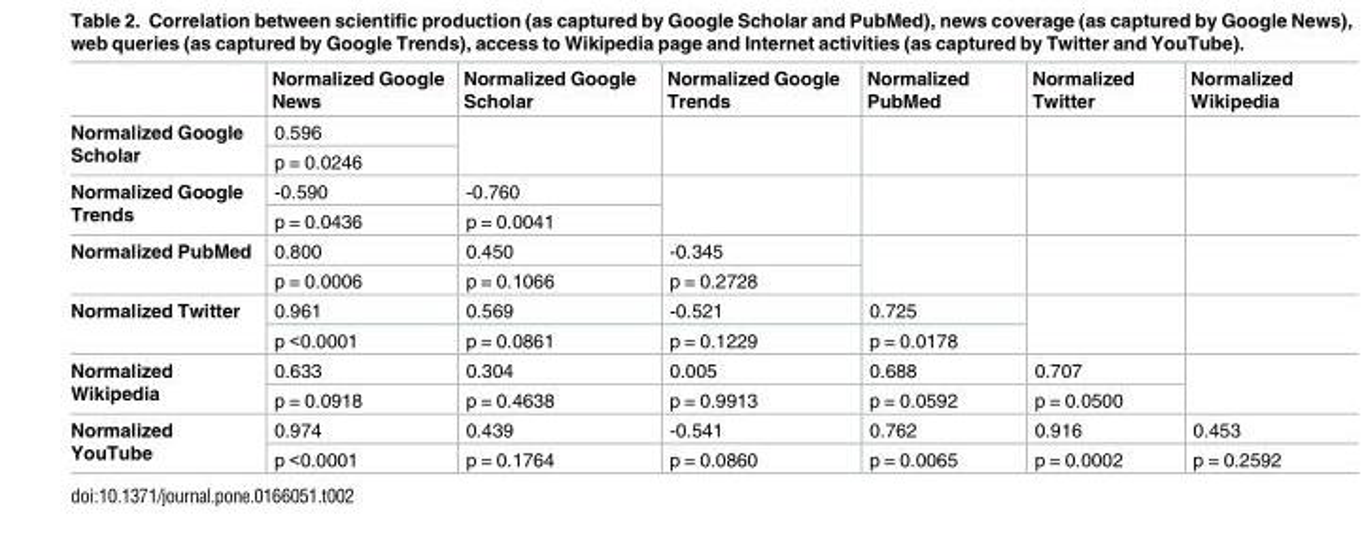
<table><thead><tr><td></td><td>Normalized Google News</td><td>Normalized Google Scholar</td><td>Normalized Google Trends</td><td>Normalized PubMed</td><td>Normalized Twitter</td><td>Normalized Wikipedia</td></tr></thead><tbody><tr><td rowspan="2">Normalized Google Scholar</td><td>0.596</td><td rowspan="2"></td><td rowspan="2"></td><td rowspan="2"></td><td rowspan="2"></td><td rowspan="2"></td></tr><tr><td>p = 0.0246</td></tr><tr><td rowspan="2">Normalized Google Trends</td><td>-0.590</td><td>-0.760</td><td rowspan="2"></td><td rowspan="2"></td><td rowspan="2"></td><td rowspan="2"></td></tr><tr><td>p = 0.0436</td><td>p = 0.0041</td></tr><tr><td rowspan="2">Normalized PubMed</td><td>0.800</td><td>0.450</td><td>-0.345</td><td rowspan="2"></td><td rowspan="2"></td><td rowspan="2"></td></tr><tr><td>p = 0.0006</td><td>p = 0.1066</td><td>p = 0.2728</td></tr><tr><td rowspan="2">Normalized Twitter</td><td>0.961</td><td>0.569</td><td>-0.521</td><td>0.725</td><td rowspan="2"></td><td rowspan="2"></td></tr><tr><td>p &lt;0.0001</td><td>p = 0.0861</td><td>p = 0.1229</td><td>p = 0.0178</td></tr><tr><td rowspan="2">Normalized Wikipedia</td><td>0.633</td><td>0.304</td><td>0.005</td><td>0.688</td><td>0.707</td><td rowspan="2"></td></tr><tr><td>p = 0.0918</td><td>p = 0.4638</td><td>p = 0.9913</td><td>p = 0.0592</td><td>p = 0.0500</td></tr><tr><td rowspan="2">Normalized YouTube</td><td>0.974</td><td>0.439</td><td>-0.541</td><td>0.762</td><td>0.916</td><td>0.453</td></tr><tr><td>p &lt;0.0001</td><td>p = 0.1764</td><td>p = 0.0860</td><td>p = 0.0065</td><td>p = 0.0002</td><td>p = 0.2592</td></tr></tbody></table>